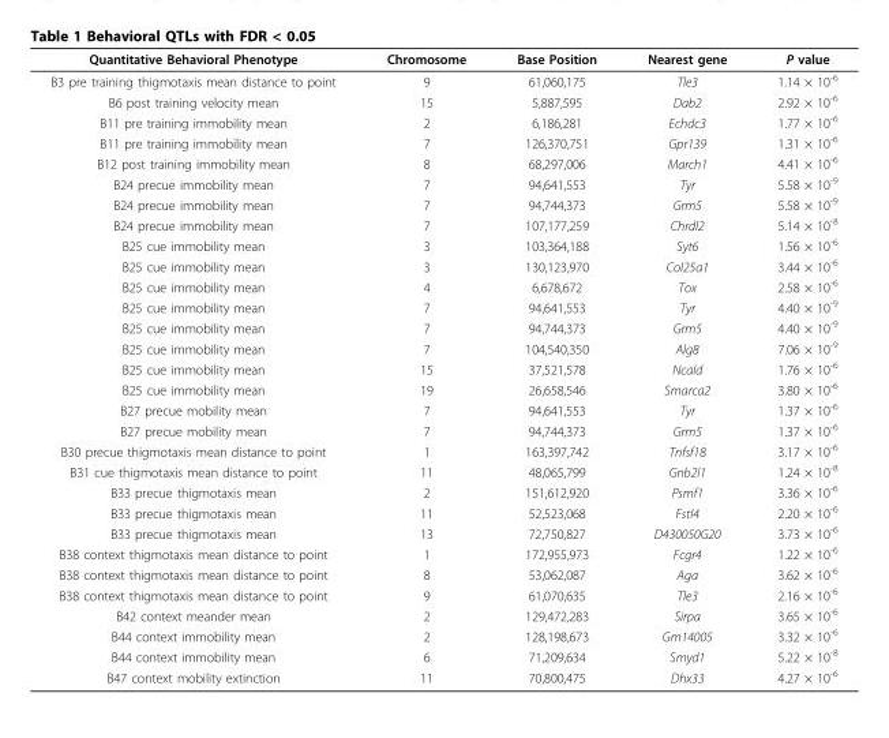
<table><thead><tr><td>Quantitative Behavioral Phenotype</td><td>Chromosome</td><td>Base Position</td><td>Nearest gene</td><td>P value</td></tr></thead><tbody><tr><td>B3 pre training thigmotaxis mean distance to point</td><td>9</td><td>61,060,175</td><td>Tle3</td><td>1.14 × 10<sup>-6</sup></td></tr><tr><td>B6 post training velocity mean</td><td>15</td><td>5,887,595</td><td>Dab2</td><td>2.92 × 10<sup>-6</sup></td></tr><tr><td>B11 pre training immobility mean</td><td>2</td><td>6,186,281</td><td>Echdc3</td><td>1.77 × 10<sup>-6</sup></td></tr><tr><td>B11 pre training immobility mean</td><td>7</td><td>126,370,751</td><td>Gpr139</td><td>1.31 × 10<sup>-6</sup></td></tr><tr><td>B12 post training immobility mean</td><td>8</td><td>68,297,006</td><td>March1</td><td>4.41 × 10<sup>-6</sup></td></tr><tr><td>B24 precue immobility mean</td><td>7</td><td>94,641,553</td><td>Tyr</td><td>5.58 × 10<sup>-9</sup></td></tr><tr><td>B24 precue immobility mean</td><td>7</td><td>94,744,373</td><td>Grm5</td><td>5.58 × 10<sup>-9</sup></td></tr><tr><td>B24 precue immobility mean</td><td>7</td><td>107,177,259</td><td>Chrdl2</td><td>5.14 × 10<sup>-8</sup></td></tr><tr><td>B25 cue immobility mean</td><td>3</td><td>103,364,188</td><td>Syt6</td><td>1.56 × 10<sup>-6</sup></td></tr><tr><td>B25 cue immobility mean</td><td>3</td><td>130,123,970</td><td>Col25a1</td><td>3.44 × 10<sup>-6</sup></td></tr><tr><td>B25 cue immobility mean</td><td>4</td><td>6,678,672</td><td>Tox</td><td>2.58 × 10<sup>-6</sup></td></tr><tr><td>B25 cue immobility mean</td><td>7</td><td>94,641,553</td><td>Tyr</td><td>4.40 × 10<sup>-9</sup></td></tr><tr><td>B25 cue immobility mean</td><td>7</td><td>94,744,373</td><td>Grm5</td><td>4.40 × 10<sup>-9</sup></td></tr><tr><td>B25 cue immobility mean</td><td>7</td><td>104,540,350</td><td>Alg8</td><td>7.06 × 10<sup>-9</sup></td></tr><tr><td>B25 cue immobility mean</td><td>15</td><td>37,521,578</td><td>Ncald</td><td>1.76 × 10<sup>-6</sup></td></tr><tr><td>B25 cue immobility mean</td><td>19</td><td>26,658,546</td><td>Smarca2</td><td>3.80 × 10<sup>-6</sup></td></tr><tr><td>B27 precue mobility mean</td><td>7</td><td>94,641,553</td><td>Tyr</td><td>1.37 × 10<sup>-6</sup></td></tr><tr><td>B27 precue mobility mean</td><td>7</td><td>94,744,373</td><td>Grm5</td><td>1.37 × 10<sup>-6</sup></td></tr><tr><td>B30 precue thigmotaxis mean distance to point</td><td>1</td><td>163,397,742</td><td>Tnfsf18</td><td>3.17 × 10<sup>-6</sup></td></tr><tr><td>B31 cue thigmotaxis mean distance to point</td><td>11</td><td>48,065,799</td><td>Gnb2l1</td><td>1.24 × 10<sup>-8</sup></td></tr><tr><td>B33 precue thigmotaxis mean</td><td>2</td><td>151,612,920</td><td>Psmf1</td><td>3.36 × 10<sup>-6</sup></td></tr><tr><td>B33 precue thigmotaxis mean</td><td>11</td><td>52,523,068</td><td>Fstl4</td><td>2.20 × 10<sup>-6</sup></td></tr><tr><td>B33 precue thigmotaxis mean</td><td>13</td><td>72,750,827</td><td>D430050G20</td><td>3.73 × 10<sup>-6</sup></td></tr><tr><td>B38 context thigmotaxis mean distance to point</td><td>1</td><td>172,955,973</td><td>Fcgr4</td><td>1.22 × 10<sup>-6</sup></td></tr><tr><td>B38 context thigmotaxis mean distance to point</td><td>8</td><td>53,062,087</td><td>Aga</td><td>3.62 × 10<sup>-6</sup></td></tr><tr><td>B38 context thigmotaxis mean distance to point</td><td>9</td><td>61,070,635</td><td>Tle3</td><td>2.16 × 10<sup>-6</sup></td></tr><tr><td>B42 context meander mean</td><td>2</td><td>129,472,283</td><td>Sirpa</td><td>3.65 × 10<sup>-6</sup></td></tr><tr><td>B44 context immobility mean</td><td>2</td><td>128,198,673</td><td>Gm14005</td><td>3.32 × 10<sup>-6</sup></td></tr><tr><td>B44 context immobility mean</td><td>6</td><td>71,209,634</td><td>Smyd1</td><td>5.22 × 10<sup>-8</sup></td></tr><tr><td>B47 context mobility extinction</td><td>11</td><td>70,800,475</td><td>Dhx33</td><td>4.27 × 10<sup>-6</sup></td></tr></tbody></table>